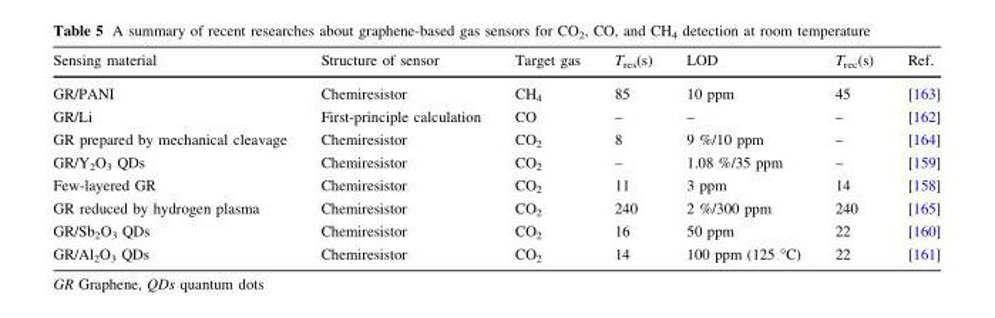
<table><thead><tr><td>Sensing material</td><td>Structure of sensor</td><td>Target gas</td><td>T<sub>res</sub>(s)</td><td>LOD</td><td>T<sub>rec</sub>(s)</td><td>Ref.</td></tr></thead><tbody><tr><td>GR/PANI</td><td>Chemiresistor</td><td>CH<sub>4</sub></td><td>85</td><td>10 ppm</td><td>45</td><td>[163]</td></tr><tr><td>GR/Li</td><td>First-principle calculation</td><td>CO</td><td>–</td><td>–</td><td>–</td><td>[162]</td></tr><tr><td>GR prepared by mechanical cleavage</td><td>Chemiresistor</td><td>CO<sub>2</sub></td><td>8</td><td>9 %/10 ppm</td><td>–</td><td>[164]</td></tr><tr><td>GR/Y<sub>2</sub>O<sub>3</sub> QDs</td><td>Chemiresistor</td><td>CO<sub>2</sub></td><td>–</td><td>1.08 %/35 ppm</td><td>–</td><td>[159]</td></tr><tr><td>Few-layered GR</td><td>Chemiresistor</td><td>CO<sub>2</sub></td><td>11</td><td>3 ppm</td><td>14</td><td>[158]</td></tr><tr><td>GR reduced by hydrogen plasma</td><td>Chemiresistor</td><td>CO<sub>2</sub></td><td>240</td><td>2 %/300 ppm</td><td>240</td><td>[165]</td></tr><tr><td>GR/Sb<sub>2</sub>O<sub>3</sub> QDs</td><td>Chemiresistor</td><td>CO<sub>2</sub></td><td>16</td><td>50 ppm</td><td>22</td><td>[160]</td></tr><tr><td>GR/Al<sub>2</sub>O<sub>3</sub> QDs</td><td>Chemiresistor</td><td>CO<sub>2</sub></td><td>14</td><td>100 ppm (125 °C)</td><td>22</td><td>[161]</td></tr></tbody></table>